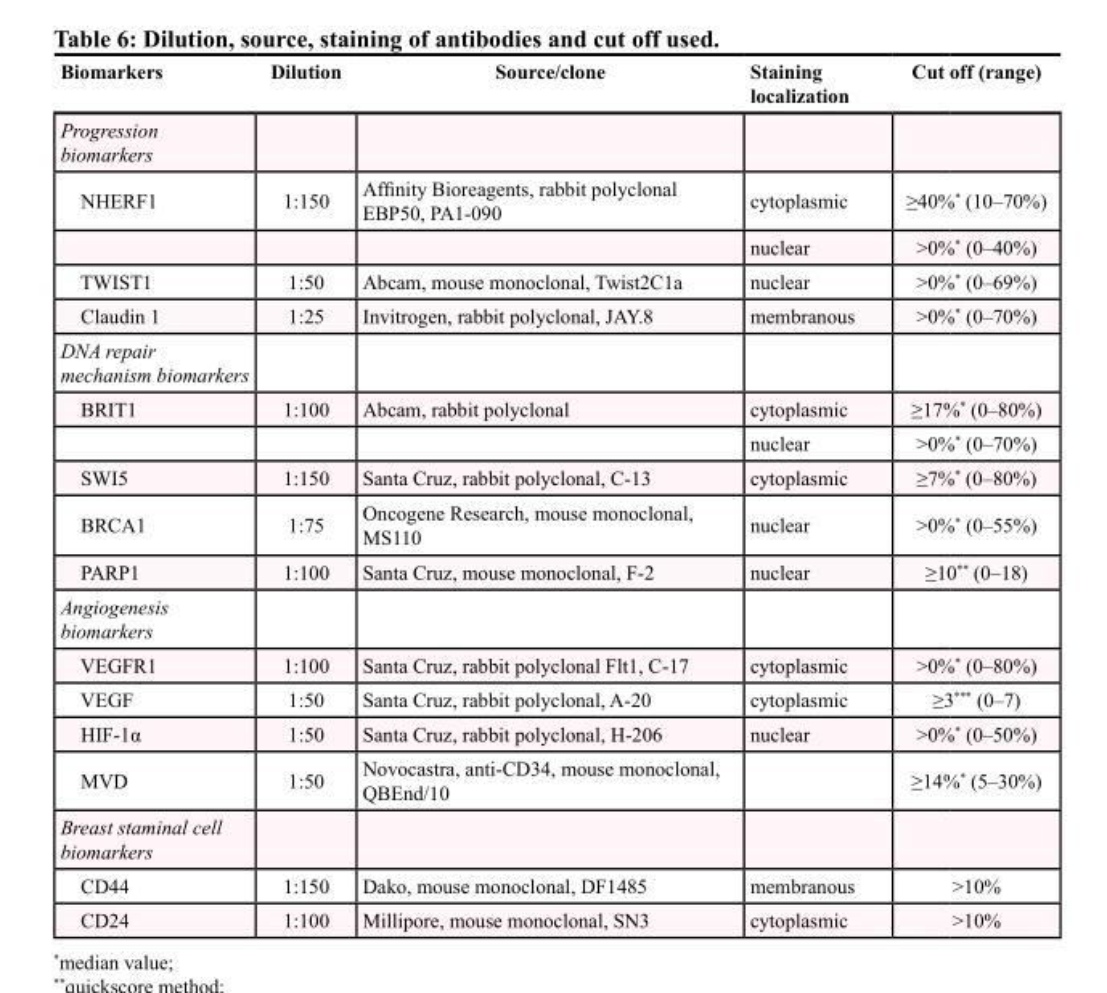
<table><thead><tr><td>Biomarkers</td><td>Dilution</td><td>Source/clone</td><td>Staining localization</td><td>Cut off (range)</td></tr></thead><tbody><tr><td colspan="5">Progression biomarkers</td></tr><tr><td rowspan="2">NHERF1</td><td>1:150</td><td>Affinity Bioreagents, rabbit polyclonal EBP50, PA1-090</td><td>cytoplasmic</td><td>≥40%* (10–70%)</td></tr><tr><td></td><td></td><td>nuclear</td><td>&gt;0%* (0–40%)</td></tr><tr><td>TWIST1</td><td>1:50</td><td>Abcam, mouse monoclonal, Twist2C1a</td><td>nuclear</td><td>&gt;0%* (0–69%)</td></tr><tr><td>Claudin 1</td><td>1:25</td><td>Invitrogen, rabbit polyclonal, JAY.8</td><td>membranous</td><td>&gt;0%* (0–70%)</td></tr><tr><td colspan="5">DNA repair mechanism biomarkers</td></tr><tr><td rowspan="2">BRIT1</td><td>1:100</td><td>Abcam, rabbit polyclonal</td><td>cytoplasmic</td><td>≥17%* (0–80%)</td></tr><tr><td></td><td></td><td>nuclear</td><td>&gt;0%* (0–70%)</td></tr><tr><td>SWI5</td><td>1:150</td><td>Santa Cruz, rabbit polyclonal, C-13</td><td>cytoplasmic</td><td>≥7%* (0–80%)</td></tr><tr><td>BRCA1</td><td>1:75</td><td>Oncogene Research, mouse monoclonal, MS110</td><td>nuclear</td><td>&gt;0%* (0–55%)</td></tr><tr><td>PARP1</td><td>1:100</td><td>Santa Cruz, mouse monoclonal, F-2</td><td>nuclear</td><td>≥10** (0–18)</td></tr><tr><td colspan="5">Angiogenesis biomarkers</td></tr><tr><td>VEGFR1</td><td>1:100</td><td>Santa Cruz, rabbit polyclonal Flt1, C-17</td><td>cytoplasmic</td><td>&gt;0%* (0–80%)</td></tr><tr><td>VEGF</td><td>1:50</td><td>Santa Cruz, rabbit polyclonal, A-20</td><td>cytoplasmic</td><td>≥3*** (0–7)</td></tr><tr><td>HIF-1α</td><td>1:50</td><td>Santa Cruz, rabbit polyclonal, H-206</td><td>nuclear</td><td>&gt;0%* (0–50%)</td></tr><tr><td>MVD</td><td>1:50</td><td>Novocastra, anti-CD34, mouse monoclonal, QBEnd/10</td><td></td><td>≥14%* (5–30%)</td></tr><tr><td colspan="5">Breast staminal cell biomarkers</td></tr><tr><td>CD44</td><td>1:150</td><td>Dako, mouse monoclonal, DF1485</td><td>membranous</td><td>&gt;10%</td></tr><tr><td>CD24</td><td>1:100</td><td>Millipore, mouse monoclonal, SN3</td><td>cytoplasmic</td><td>&gt;10%</td></tr></tbody></table>